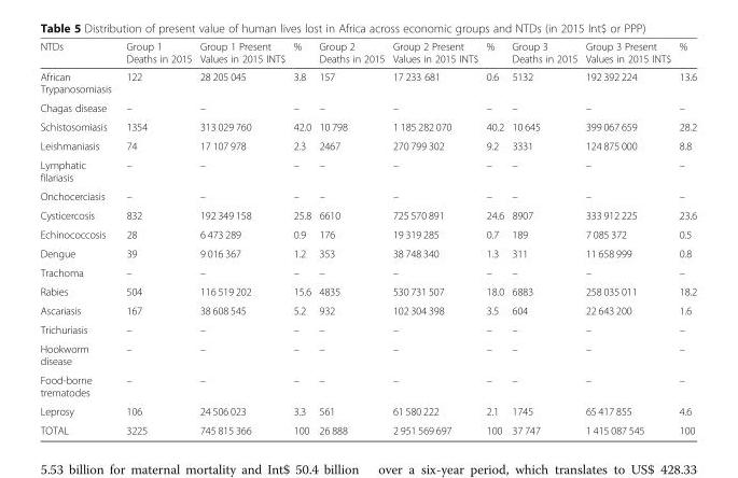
<table><thead><tr><td>NTDs</td><td>Group 1 Deaths in 2015</td><td>Group 1 Present Values in 2015 INT$</td><td>%</td><td>Group 2 Deaths in 2015</td><td>Group 2 Present Values in 2015 INT$</td><td>%</td><td>Group 3 Deaths in 2015</td><td>Group 3 Present Values in 2015 INT$</td><td>%</td></tr></thead><tbody><tr><td>African Trypanosomiasis</td><td>122</td><td>28 205 045</td><td>3.8</td><td>157</td><td>17 233 681</td><td>0.6</td><td>5132</td><td>192 392 224</td><td>13.6</td></tr><tr><td>Chagas disease</td><td>–</td><td>–</td><td>–</td><td>–</td><td>–</td><td>–</td><td>–</td><td>–</td><td>–</td></tr><tr><td>Schistosomiasis</td><td>1354</td><td>313 029 760</td><td>42.0</td><td>10 798</td><td>1 185 282 070</td><td>40.2</td><td>10 645</td><td>399 067 659</td><td>28.2</td></tr><tr><td>Leishmaniasis</td><td>74</td><td>17 107 978</td><td>2.3</td><td>2467</td><td>270 799 302</td><td>9.2</td><td>3331</td><td>124 875 000</td><td>8.8</td></tr><tr><td>Lymphatic filariasis</td><td>–</td><td>–</td><td>–</td><td>–</td><td>–</td><td>–</td><td>–</td><td>–</td><td>–</td></tr><tr><td>Onchocerciasis</td><td>–</td><td>–</td><td>–</td><td>–</td><td>–</td><td>–</td><td>–</td><td>–</td><td>–</td></tr><tr><td>Cysticercosis</td><td>832</td><td>192 349 158</td><td>25.8</td><td>6610</td><td>725 570 891</td><td>24.6</td><td>8907</td><td>333 912 225</td><td>23.6</td></tr><tr><td>Echinococcosis</td><td>28</td><td>6 473 289</td><td>0.9</td><td>176</td><td>19 319 285</td><td>0.7</td><td>189</td><td>7 085 372</td><td>0.5</td></tr><tr><td>Dengue</td><td>39</td><td>9 016 367</td><td>1.2</td><td>353</td><td>38 748 340</td><td>1.3</td><td>311</td><td>11 658 999</td><td>0.8</td></tr><tr><td>Trachoma</td><td>–</td><td>–</td><td>–</td><td>–</td><td>–</td><td>–</td><td>–</td><td>–</td><td>–</td></tr><tr><td>Rabies</td><td>504</td><td>116 519 202</td><td>15.6</td><td>4835</td><td>530 731 507</td><td>18.0</td><td>6883</td><td>258 035 011</td><td>18.2</td></tr><tr><td>Ascariasis</td><td>167</td><td>38 608 545</td><td>5.2</td><td>932</td><td>102 304 398</td><td>3.5</td><td>604</td><td>22 643 200</td><td>1.6</td></tr><tr><td>Trichuriasis</td><td>–</td><td>–</td><td>–</td><td>–</td><td>–</td><td>–</td><td>–</td><td>–</td><td>–</td></tr><tr><td>Hookworm disease</td><td>–</td><td>–</td><td>–</td><td>–</td><td>–</td><td>–</td><td>–</td><td>–</td><td>–</td></tr><tr><td>Food-borne trematodes</td><td>–</td><td>–</td><td>–</td><td>–</td><td>–</td><td>–</td><td>–</td><td>–</td><td>–</td></tr><tr><td>Leprosy</td><td>106</td><td>24 506 023</td><td>3.3</td><td>561</td><td>61 580 222</td><td>2.1</td><td>1745</td><td>65 417 855</td><td>4.6</td></tr><tr><td>TOTAL</td><td>3225</td><td>745 815 366</td><td>100</td><td>26 888</td><td>2 951 569 697</td><td>100</td><td>37 747</td><td>1 415 087 545</td><td>100</td></tr></tbody></table>